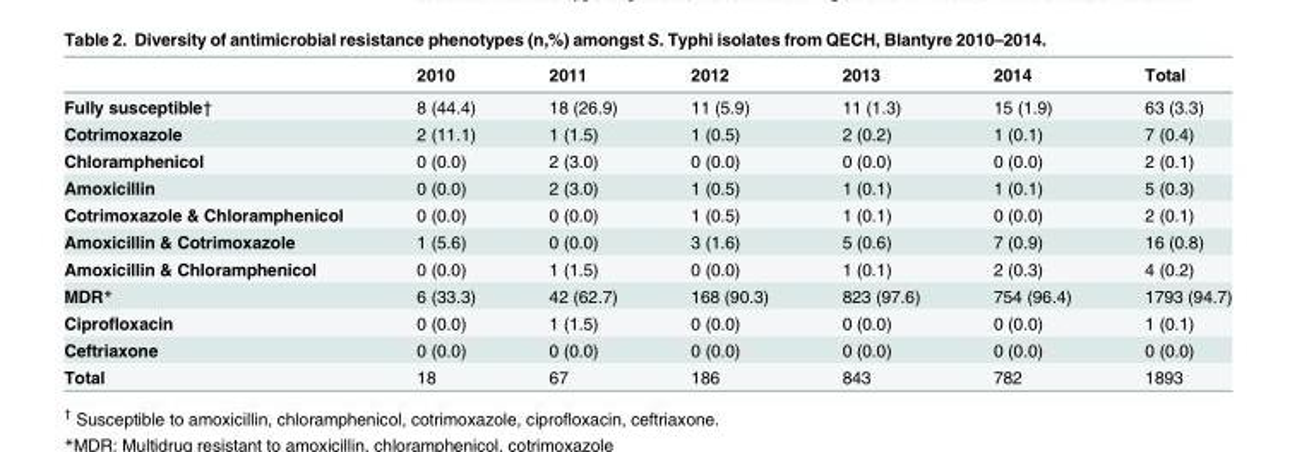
<table><thead><tr><td></td><td>2010</td><td>2011</td><td>2012</td><td>2013</td><td>2014</td><td>Total</td></tr></thead><tbody><tr><td>Fully susceptible†</td><td>8 (44.4)</td><td>18 (26.9)</td><td>11 (5.9)</td><td>11 (1.3)</td><td>15 (1.9)</td><td>63 (3.3)</td></tr><tr><td>Cotrimoxazole</td><td>2 (11.1)</td><td>1 (1.5)</td><td>1 (0.5)</td><td>2 (0.2)</td><td>1 (0.1)</td><td>7 (0.4)</td></tr><tr><td>Chloramphenicol</td><td>0 (0.0)</td><td>2 (3.0)</td><td>0 (0.0)</td><td>0 (0.0)</td><td>0 (0.0)</td><td>2 (0.1)</td></tr><tr><td>Amoxicillin</td><td>0 (0.0)</td><td>2 (3.0)</td><td>1 (0.5)</td><td>1 (0.1)</td><td>1 (0.1)</td><td>5 (0.3)</td></tr><tr><td>Cotrimoxazole &amp; Chloramphenicol</td><td>0 (0.0)</td><td>0 (0.0)</td><td>1 (0.5)</td><td>1 (0.1)</td><td>0 (0.0)</td><td>2 (0.1)</td></tr><tr><td>Amoxicillin &amp; Cotrimoxazole</td><td>1 (5.6)</td><td>0 (0.0)</td><td>3 (1.6)</td><td>5 (0.6)</td><td>7 (0.9)</td><td>16 (0.8)</td></tr><tr><td>Amoxicillin &amp; Chloramphenicol</td><td>0 (0.0)</td><td>1 (1.5)</td><td>0 (0.0)</td><td>1 (0.1)</td><td>2 (0.3)</td><td>4 (0.2)</td></tr><tr><td>MDR*</td><td>6 (33.3)</td><td>42 (62.7)</td><td>168 (90.3)</td><td>823 (97.6)</td><td>754 (96.4)</td><td>1793 (94.7)</td></tr><tr><td>Ciprofloxacin</td><td>0 (0.0)</td><td>1 (1.5)</td><td>0 (0.0)</td><td>0 (0.0)</td><td>0 (0.0)</td><td>1 (0.1)</td></tr><tr><td>Ceftriaxone</td><td>0 (0.0)</td><td>0 (0.0)</td><td>0 (0.0)</td><td>0 (0.0)</td><td>0 (0.0)</td><td>0 (0.0)</td></tr><tr><td>Total</td><td>18</td><td>67</td><td>186</td><td>843</td><td>782</td><td>1893</td></tr></tbody></table>